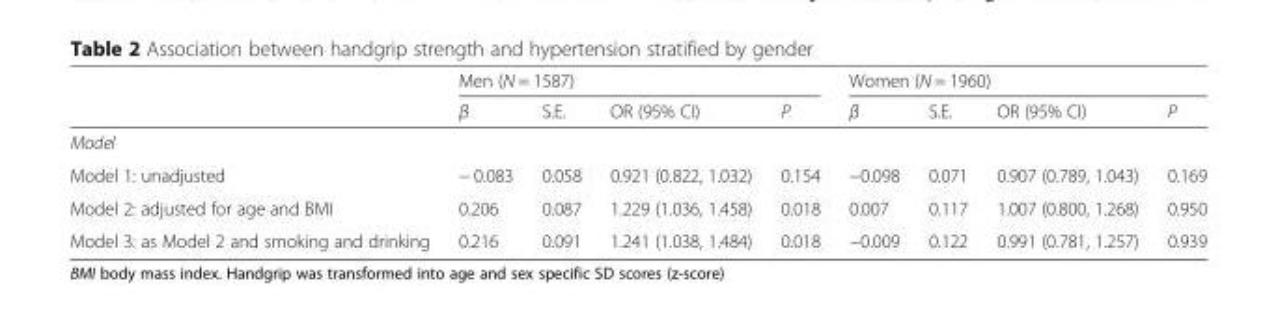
<table><thead><tr><td rowspan="2"></td><td colspan="4">Men (N = 1587)</td><td colspan="4">Women (N = 1960)</td></tr><tr><td>β</td><td>S.E.</td><td>OR (95% CI)</td><td>P</td><td>β</td><td>S.E.</td><td>OR (95% CI)</td><td>P</td></tr></thead><tbody><tr><td colspan="9">Model</td></tr><tr><td>Model 1: unadjusted</td><td>− 0.083</td><td>0.058</td><td>0.921 (0.822, 1.032)</td><td>0.154</td><td>−0.098</td><td>0.071</td><td>0.907 (0.789, 1.043)</td><td>0.169</td></tr><tr><td>Model 2: adjusted for age and BMI</td><td>0.206</td><td>0.087</td><td>1.229 (1.036, 1.458)</td><td>0.018</td><td>0.007</td><td>0.117</td><td>1.007 (0.800, 1.268)</td><td>0.950</td></tr><tr><td>Model 3: as Model 2 and smoking and drinking</td><td>0.216</td><td>0.091</td><td>1.241 (1.038, 1.484)</td><td>0.018</td><td>−0.009</td><td>0.122</td><td>0.991 (0.781, 1.257)</td><td>0.939</td></tr></tbody></table>